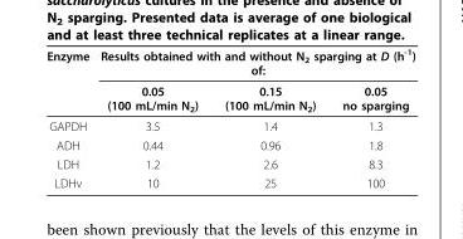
<table><thead><tr><td rowspan="2">Enzyme</td><td colspan="3">Results obtained with and without N<sub>2</sub> sparging at D (h<sup>-1</sup>) of:</td></tr><tr><td>0.05 (100 mL/min N<sub>2</sub>)</td><td>0.15 (100 mL/min N<sub>2</sub>)</td><td>0.05 no sparging</td></tr></thead><tbody><tr><td>GAPDH</td><td>3.5</td><td>1.4</td><td>1.3</td></tr><tr><td>ADH</td><td>0.44</td><td>0.96</td><td>1.8</td></tr><tr><td>LDH</td><td>1.2</td><td>2.6</td><td>8.3</td></tr><tr><td>LDHv</td><td>10</td><td>25</td><td>100</td></tr></tbody></table>